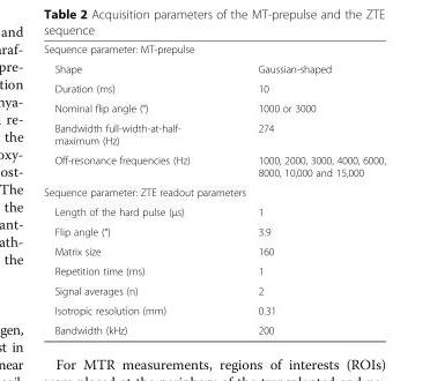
<table><tbody><tr><td colspan="2">Sequence parameter: MT-prepulse</td></tr><tr><td>Shape</td><td>Gaussian-shaped</td></tr><tr><td>Duration (ms)</td><td>10</td></tr><tr><td>Nominal flip angle (°)</td><td>1000 or 3000</td></tr><tr><td>Bandwidth full-width-at-half- maximum (Hz)</td><td>274</td></tr><tr><td>Off-resonance frequencies (Hz)</td><td>1000, 2000, 3000, 4000, 6000, 8000, 10,000 and 15,000</td></tr><tr><td colspan="2">Sequence parameter: ZTE readout parameters</td></tr><tr><td>Length of the hard pulse (μs)</td><td>1</td></tr><tr><td>Flip angle (°)</td><td>3.9</td></tr><tr><td>Matrix size</td><td>160</td></tr><tr><td>Repetition time (ms)</td><td>1</td></tr><tr><td>Signal averages (n)</td><td>2</td></tr><tr><td>Isotropic resolution (mm)</td><td>0.31</td></tr><tr><td>Bandwidth (kHz)</td><td>200</td></tr></tbody></table>